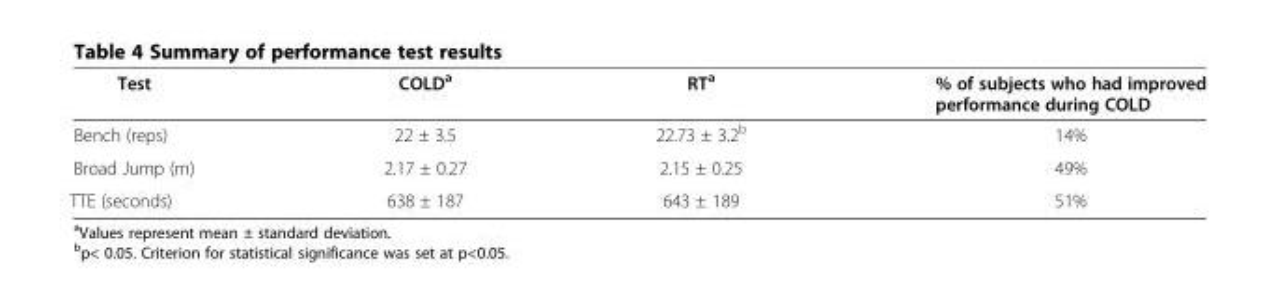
<table><thead><tr><td>Test</td><td>COLD<sup>a</sup></td><td>RT<sup>a</sup></td><td>% of subjects who had improved performance during COLD</td></tr></thead><tbody><tr><td>Bench (reps)</td><td>22 ± 3.5</td><td>22.73 ± 3.2<sup>b</sup></td><td>14%</td></tr><tr><td>Broad Jump (m)</td><td>2.17 ± 0.27</td><td>2.15 ± 0.25</td><td>49%</td></tr><tr><td>TTE (seconds)</td><td>638 ± 187</td><td>643 ± 189</td><td>51%</td></tr></tbody></table>